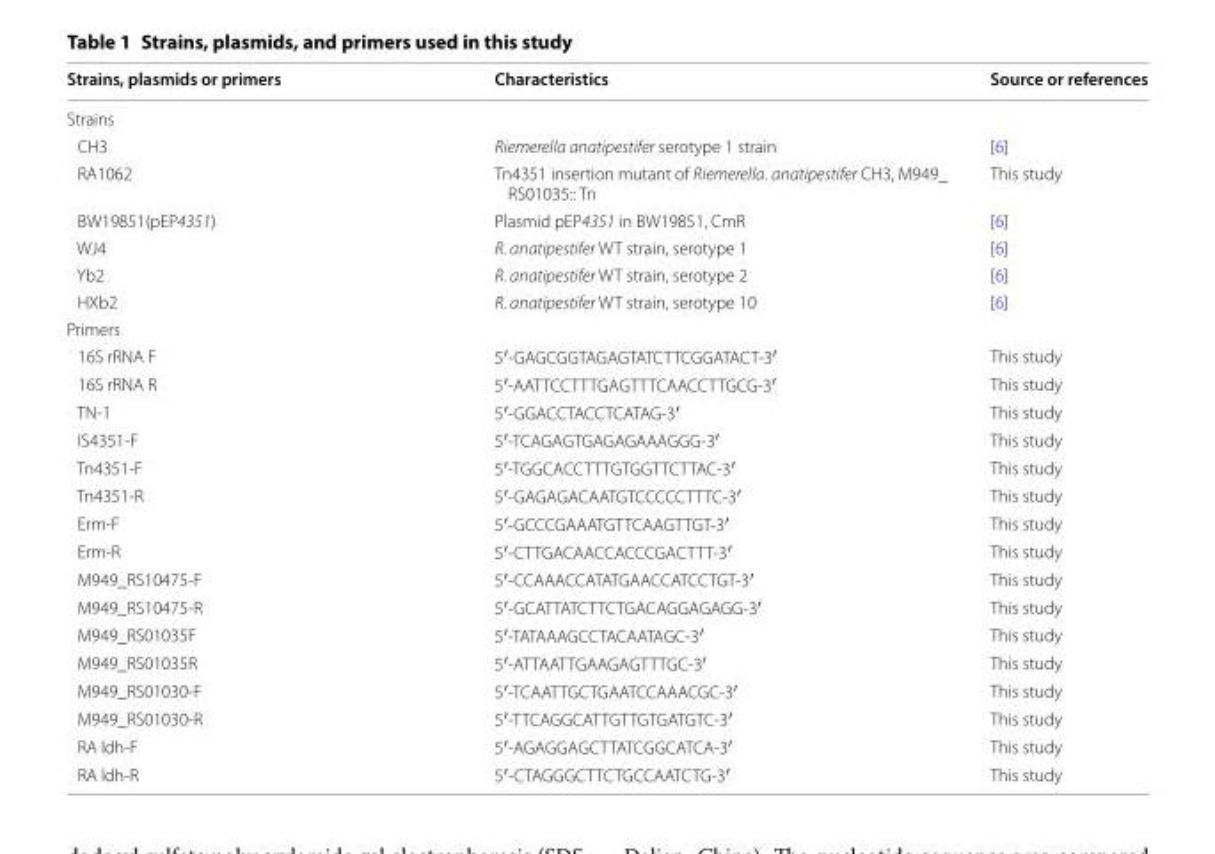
<table><thead><tr><td>Strains, plasmids or primers</td><td>Characteristics</td><td>Source or references</td></tr></thead><tbody><tr><td colspan="3">Strains</td></tr><tr><td>CH3</td><td>Riemerella anatipestifer serotype 1 strain</td><td>[6]</td></tr><tr><td>RA1062</td><td>Tn4351 insertion mutant of Riemerella. anatipestifer CH3, M949_ RS01035:: Tn</td><td>This study</td></tr><tr><td>BW19851(pEP4351)</td><td>Plasmid pEP4351 in BW19851, CmR</td><td>[6]</td></tr><tr><td>WJ4</td><td>R. anatipestifer WT strain, serotype 1</td><td>[6]</td></tr><tr><td>Yb2</td><td>R. anatipestifer WT strain, serotype 2</td><td>[6]</td></tr><tr><td>HXb2</td><td>R. anatipestifer WT strain, serotype 10</td><td>[6]</td></tr><tr><td colspan="3">Primers</td></tr><tr><td>16S rRNA F</td><td>5′-GAG CGG TAG AGT ATC TTC GGA TAC T-3′</td><td>This study</td></tr><tr><td>16S rRNA R</td><td>5′-AAT TCC TTT GAG TTT CAA CCT TGC G-3′</td><td>This study</td></tr><tr><td>TN-1</td><td>5′-GGA CCT ACC TCA TAG-3′</td><td>This study</td></tr><tr><td>IS4351-F</td><td>5′-TCA GAG TGA GAG AAA GGG -3′</td><td>This study</td></tr><tr><td>Tn4351-F</td><td>5′-TGG CAC CTT TGT GGT TCT TAC-3′</td><td>This study</td></tr><tr><td>Tn4351-R</td><td>5′-GAG AGA CAA TGT CCC CCT TTC-3′</td><td>This study</td></tr><tr><td>Erm-F</td><td>5′-GCC CGA AAT GTT CAA GTT GT-3′</td><td>This study</td></tr><tr><td>Erm-R</td><td>5′-CTT GAC AAC CAC CCG ACT TT-3′</td><td>This study</td></tr><tr><td>M949_RS10475-F</td><td>5′-CCA AAC CAT ATG AAC CAT CCTGT-3′</td><td>This study</td></tr><tr><td>M949_RS10475-R</td><td>5′-GCA TTA TCT TCT GAC AGG AGAGG-3′</td><td>This study</td></tr><tr><td>M949_RS01035F</td><td>5′-TAT AAA GCC TAC AAT AGC -3′</td><td>This study</td></tr><tr><td>M949_RS01035R</td><td>5′-ATT AAT TGA AGA GTT TGC -3′</td><td>This study</td></tr><tr><td>M949_RS01030-F</td><td>5′-TCA ATT GCT GAA TCC AAA CGC-3′</td><td>This study</td></tr><tr><td>M949_RS01030-R</td><td>5′-TTC AGG CAT TGT TGT GAT GTC-3′</td><td>This study</td></tr><tr><td>RA ldh-F</td><td>5′-AGA GGA GCT TAT CGG CAT CA-3′</td><td>This study</td></tr><tr><td>RA ldh-R</td><td>5′-CTA GGG CTT CTG CCA ATC TG-3′</td><td>This study</td></tr></tbody></table>